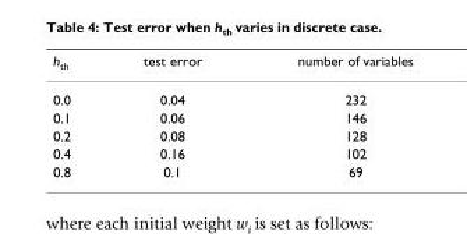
<table><thead><tr><td>hth</td><td>test error</td><td>number of variables</td></tr></thead><tbody><tr><td>0.0</td><td>0.04</td><td>232</td></tr><tr><td>0.1</td><td>0.06</td><td>146</td></tr><tr><td>0.2</td><td>0.08</td><td>128</td></tr><tr><td>0.4</td><td>0.16</td><td>102</td></tr><tr><td>0.8</td><td>0.1</td><td>69</td></tr></tbody></table>